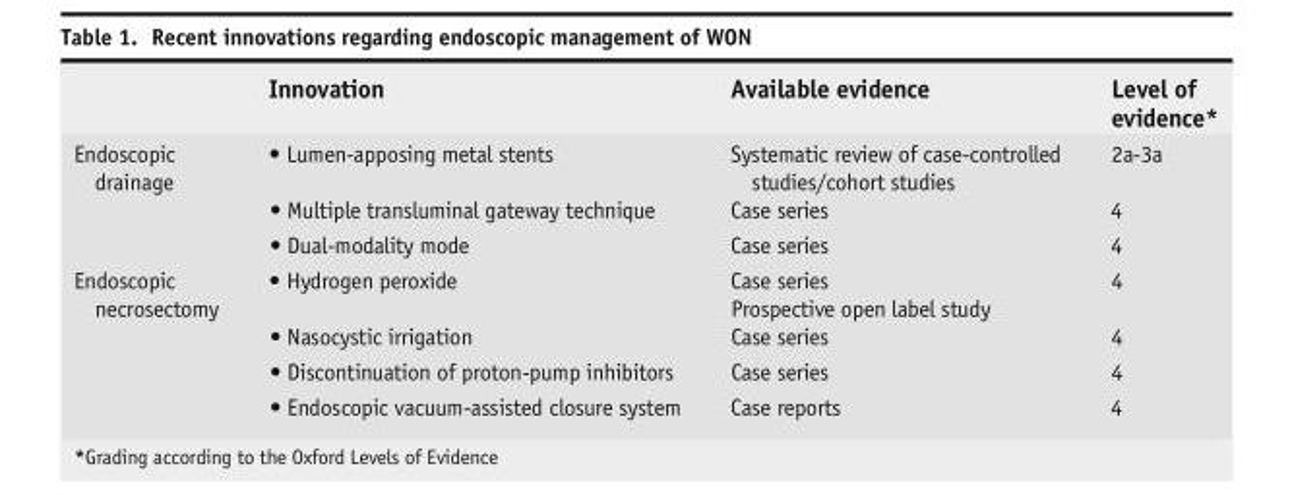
<table><thead><tr><td></td><td>Innovation</td><td>Available evidence</td><td>Level of evidence*</td></tr></thead><tbody><tr><td rowspan="3">Endoscopic drainage</td><td>• Lumen-apposing metal stents</td><td>Systematic review of case-controlled studies/cohort studies</td><td>2a-3a</td></tr><tr><td>• Multiple transluminal gateway technique</td><td>Case series</td><td>4</td></tr><tr><td>• Dual-modality mode</td><td>Case series</td><td>4</td></tr><tr><td rowspan="4">Endoscopic necrosectomy</td><td>• Hydrogen peroxide</td><td>Case series Prospective open label study</td><td>4</td></tr><tr><td>• Nasocystic irrigation</td><td>Case series</td><td>4</td></tr><tr><td>• Discontinuation of proton-pump inhibitors</td><td>Case series</td><td>4</td></tr><tr><td>• Endoscopic vacuum-assisted closure system</td><td>Case reports</td><td>4</td></tr></tbody></table>